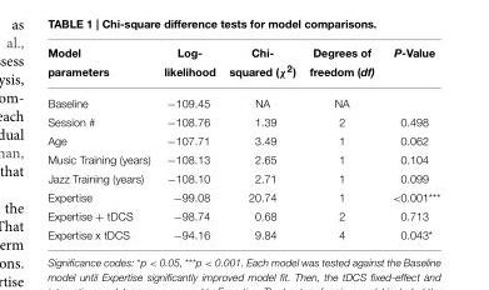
<table><thead><tr><td>Model parameters</td><td>Log- likelihood</td><td>Chi- squared (χ<sup>2</sup>)</td><td>Degrees of freedom (df)</td><td>P-Value</td></tr></thead><tbody><tr><td>Baseline</td><td>−109.45</td><td>NA</td><td>NA</td><td></td></tr><tr><td>Session #</td><td>−108.76</td><td>1.39</td><td>2</td><td>0.498</td></tr><tr><td>Age</td><td>−107.71</td><td>3.49</td><td>1</td><td>0.062</td></tr><tr><td>Music Training (years)</td><td>−108.13</td><td>2.65</td><td>1</td><td>0.104</td></tr><tr><td>Jazz Training (years)</td><td>−108.10</td><td>2.71</td><td>1</td><td>0.099</td></tr><tr><td>Expertise</td><td>−99.08</td><td>20.74</td><td>1</td><td>&lt;0.001***</td></tr><tr><td>Expertise + tDCS</td><td>−98.74</td><td>0.68</td><td>2</td><td>0.713</td></tr><tr><td>Expertise x tDCS</td><td>−94.16</td><td>9.84</td><td>4</td><td>0.043*</td></tr></tbody></table>